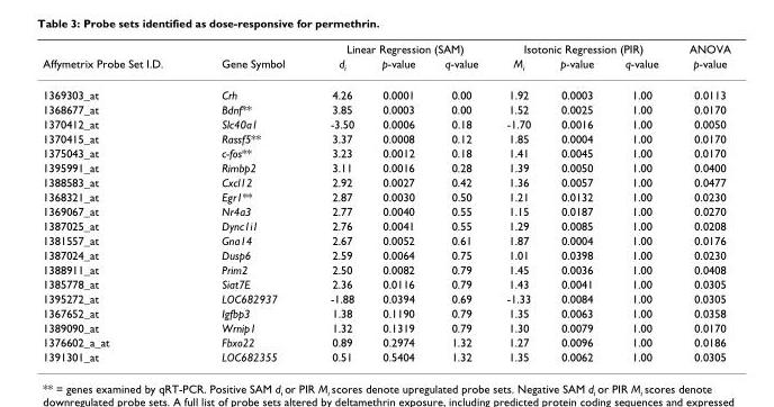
<table><thead><tr><td rowspan="2">Affymetrix Probe Set I.D.</td><td rowspan="2">Gene Symbol</td><td colspan="3">Linear Regression (SAM)</td><td colspan="3">Isotonic Regression (PIR)</td><td rowspan="2">ANOVA p-value</td></tr><tr><td>d<sub>i</sub></td><td>p-value</td><td>q-value</td><td>M<sub>i</sub></td><td>p-value</td><td>q-value</td></tr></thead><tbody><tr><td>1369303_at</td><td>Crh</td><td>4.26</td><td>0.0001</td><td>0.00</td><td>1.92</td><td>0.0003</td><td>1.00</td><td>0.0113</td></tr><tr><td>1368677_at</td><td>Bdnf**</td><td>3.85</td><td>0.0003</td><td>0.00</td><td>1.52</td><td>0.0025</td><td>1.00</td><td>0.0170</td></tr><tr><td>1370412_at</td><td>Slc40a1</td><td>-3.50</td><td>0.0006</td><td>0.18</td><td>-1.70</td><td>0.0016</td><td>1.00</td><td>0.0050</td></tr><tr><td>1370415_at</td><td>Rassf5**</td><td>3.37</td><td>0.0008</td><td>0.12</td><td>1.85</td><td>0.0004</td><td>1.00</td><td>0.0170</td></tr><tr><td>1375043_at</td><td>c-fos**</td><td>3.23</td><td>0.0012</td><td>0.18</td><td>1.41</td><td>0.0045</td><td>1.00</td><td>0.0170</td></tr><tr><td>1395991_at</td><td>Rimbp2</td><td>3.11</td><td>0.0016</td><td>0.28</td><td>1.39</td><td>0.0050</td><td>1.00</td><td>0.0400</td></tr><tr><td>1388583_at</td><td>Cxcl12</td><td>2.92</td><td>0.0027</td><td>0.42</td><td>1.36</td><td>0.0057</td><td>1.00</td><td>0.0477</td></tr><tr><td>1368321_at</td><td>Egr1**</td><td>2.87</td><td>0.0030</td><td>0.50</td><td>1.21</td><td>0.0132</td><td>1.00</td><td>0.0230</td></tr><tr><td>1369067_at</td><td>Nr4a3</td><td>2.77</td><td>0.0040</td><td>0.55</td><td>1.15</td><td>0.0187</td><td>1.00</td><td>0.0270</td></tr><tr><td>1387025_at</td><td>Dync1i1</td><td>2.76</td><td>0.0041</td><td>0.55</td><td>1.29</td><td>0.0085</td><td>1.00</td><td>0.0208</td></tr><tr><td>1381557_at</td><td>Gna14</td><td>2.67</td><td>0.0052</td><td>0.61</td><td>1.87</td><td>0.0004</td><td>1.00</td><td>0.0176</td></tr><tr><td>1387024_at</td><td>Dusp6</td><td>2.59</td><td>0.0064</td><td>0.75</td><td>1.01</td><td>0.0398</td><td>1.00</td><td>0.0230</td></tr><tr><td>1388911_at</td><td>Prim2</td><td>2.50</td><td>0.0082</td><td>0.79</td><td>1.45</td><td>0.0036</td><td>1.00</td><td>0.0408</td></tr><tr><td>1385778_at</td><td>Siat7E</td><td>2.36</td><td>0.0116</td><td>0.79</td><td>1.43</td><td>0.0041</td><td>1.00</td><td>0.0305</td></tr><tr><td>1395272_at</td><td>LOC682937</td><td>-1.88</td><td>0.0394</td><td>0.69</td><td>-1.33</td><td>0.0084</td><td>1.00</td><td>0.0305</td></tr><tr><td>1367652_at</td><td>Igfbp3</td><td>1.38</td><td>0.1190</td><td>0.79</td><td>1.35</td><td>0.0063</td><td>1.00</td><td>0.0358</td></tr><tr><td>1389090_at</td><td>Wrnip1</td><td>1.32</td><td>0.1319</td><td>0.79</td><td>1.30</td><td>0.0079</td><td>1.00</td><td>0.0170</td></tr><tr><td>1376602_a_at</td><td>Fbxo22</td><td>0.89</td><td>0.2974</td><td>1.32</td><td>1.27</td><td>0.0096</td><td>1.00</td><td>0.0186</td></tr><tr><td>1391301_at</td><td>LOC682355</td><td>0.51</td><td>0.5404</td><td>1.32</td><td>1.35</td><td>0.0062</td><td>1.00</td><td>0.0305</td></tr></tbody></table>